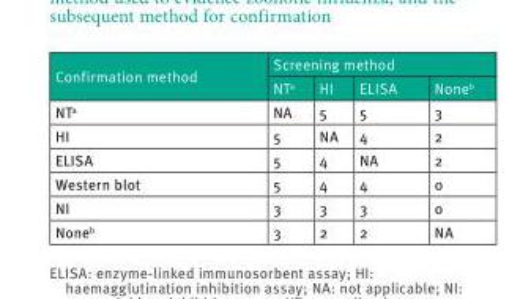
<table><thead><tr><td rowspan="2">Confirmation method</td><td colspan="4">Screening method</td></tr><tr><td>NT<sup>a</sup></td><td>HI</td><td>ELISA</td><td>None<sup>b</sup></td></tr></thead><tbody><tr><td>NT<sup>a</sup></td><td>NA</td><td>5</td><td>5</td><td>3</td></tr><tr><td>HI</td><td>5</td><td>NA</td><td>4</td><td>2</td></tr><tr><td>ELISA</td><td>5</td><td>4</td><td>NA</td><td>2</td></tr><tr><td>Western blot</td><td>5</td><td>4</td><td>4</td><td>0</td></tr><tr><td>NI</td><td>3</td><td>3</td><td>3</td><td>0</td></tr><tr><td>None<sup>b</sup></td><td>3</td><td>2</td><td>2</td><td>NA</td></tr></tbody></table>